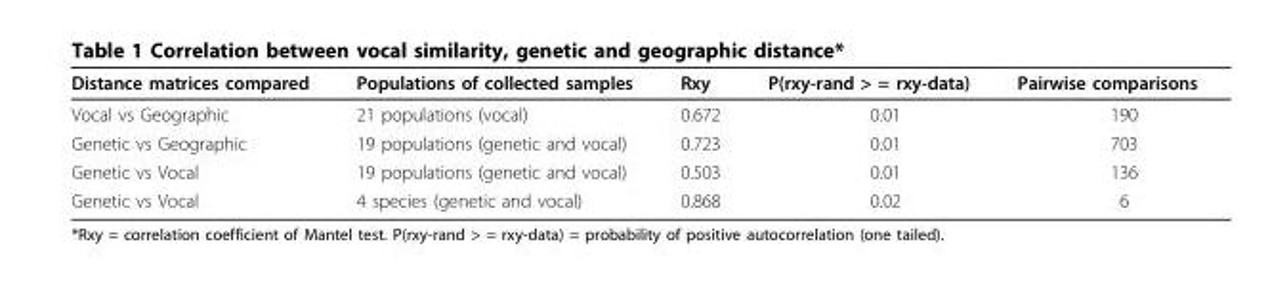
<table><thead><tr><td>Distance matrices compared</td><td>Populations of collected samples</td><td>Rxy</td><td>P(rxy-rand &gt; = rxy-data)</td><td>Pairwise comparisons</td></tr></thead><tbody><tr><td>Vocal vs Geographic</td><td>21 populations (vocal)</td><td>0.672</td><td>0.01</td><td>190</td></tr><tr><td>Genetic vs Geographic</td><td>19 populations (genetic and vocal)</td><td>0.723</td><td>0.01</td><td>703</td></tr><tr><td>Genetic vs Vocal</td><td>19 populations (genetic and vocal)</td><td>0.503</td><td>0.01</td><td>136</td></tr><tr><td>Genetic vs Vocal</td><td>4 species (genetic and vocal)</td><td>0.868</td><td>0.02</td><td>6</td></tr></tbody></table>